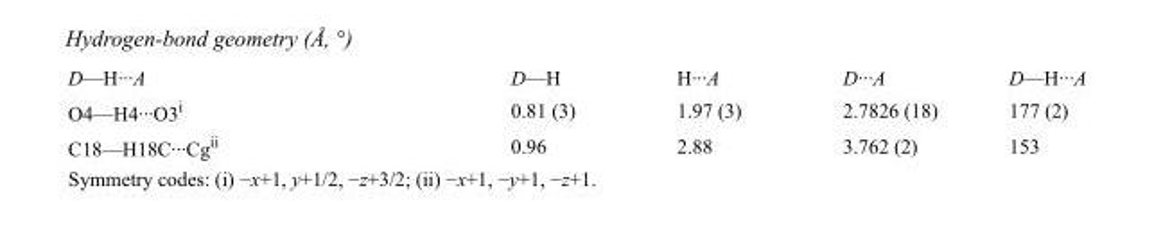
<table><tbody><tr><td>D—H···A</td><td>D—H</td><td>H···A</td><td>D···A</td><td>D—H···A</td></tr><tr><td>O4—H4···O3<sup>i</sup></td><td>0.81 (3)</td><td>1.97 (3)</td><td>2.7826 (18)</td><td>177 (2)</td></tr><tr><td>C18—H18C···Cg<sup>ii</sup></td><td>0.96</td><td>2.88</td><td>3.762 (2)</td><td>153</td></tr></tbody></table>